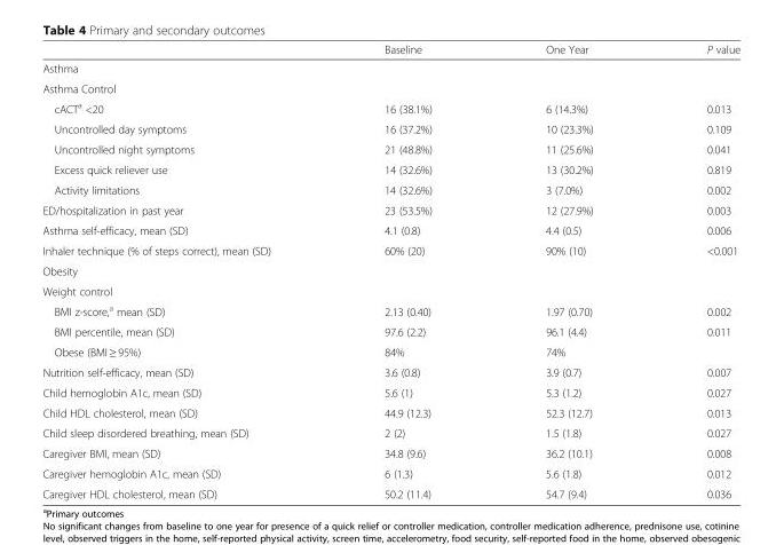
<table><thead><tr><td></td><td>Baseline</td><td>One Year</td><td>P value</td></tr></thead><tbody><tr><td colspan="4">Asthma</td></tr><tr><td colspan="4">Asthma Control</td></tr><tr><td>cACT<sup>a</sup> &lt;20</td><td>16 (38.1%)</td><td>6 (14.3%)</td><td>0.013</td></tr><tr><td>Uncontrolled day symptoms</td><td>16 (37.2%)</td><td>10 (23.3%)</td><td>0.109</td></tr><tr><td>Uncontrolled night symptoms</td><td>21 (48.8%)</td><td>11 (25.6%)</td><td>0.041</td></tr><tr><td>Excess quick reliever use</td><td>14 (32.6%)</td><td>13 (30.2%)</td><td>0.819</td></tr><tr><td>Activity limitations</td><td>14 (32.6%)</td><td>3 (7.0%)</td><td>0.002</td></tr><tr><td>ED/hospitalization in past year</td><td>23 (53.5%)</td><td>12 (27.9%)</td><td>0.003</td></tr><tr><td>Asthma self-efficacy, mean (SD)</td><td>4.1 (0.8)</td><td>4.4 (0.5)</td><td>0.006</td></tr><tr><td>Inhaler technique (% of steps correct), mean (SD)</td><td>60% (20)</td><td>90% (10)</td><td>&lt;0.001</td></tr><tr><td colspan="4">Obesity</td></tr><tr><td colspan="4">Weight control</td></tr><tr><td>BMI z-score,<sup>a</sup> mean (SD)</td><td>2.13 (0.40)</td><td>1.97 (0.70)</td><td>0.002</td></tr><tr><td>BMI percentile, mean (SD)</td><td>97.6 (2.2)</td><td>96.1 (4.4)</td><td>0.011</td></tr><tr><td>Obese (BMI ≥ 95%)</td><td>84%</td><td>74%</td><td></td></tr><tr><td>Nutrition self-efficacy, mean (SD)</td><td>3.6 (0.8)</td><td>3.9 (0.7)</td><td>0.007</td></tr><tr><td>Child hemoglobin A1c, mean (SD)</td><td>5.6 (1)</td><td>5.3 (1.2)</td><td>0.027</td></tr><tr><td>Child HDL cholesterol, mean (SD)</td><td>44.9 (12.3)</td><td>52.3 (12.7)</td><td>0.013</td></tr><tr><td>Child sleep disordered breathing, mean (SD)</td><td>2 (2)</td><td>1.5 (1.8)</td><td>0.027</td></tr><tr><td>Caregiver BMI, mean (SD)</td><td>34.8 (9.6)</td><td>36.2 (10.1)</td><td>0.008</td></tr><tr><td>Caregiver hemoglobin A1c, mean (SD)</td><td>6 (1.3)</td><td>5.6 (1.8)</td><td>0.012</td></tr><tr><td>Caregiver HDL cholesterol, mean (SD)</td><td>50.2 (11.4)</td><td>54.7 (9.4)</td><td>0.036</td></tr></tbody></table>